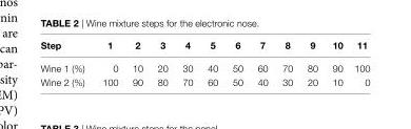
<table><thead><tr><td>step</td><td>1</td><td>2</td><td>3</td><td>4</td><td>5</td><td>6</td><td>7</td><td>8</td><td>9</td><td>10</td><td>11</td></tr></thead><tbody><tr><td>Wine 1 (%)</td><td>0</td><td>10</td><td>20</td><td>30</td><td>40</td><td>50</td><td>60</td><td>70</td><td>80</td><td>90</td><td>100</td></tr><tr><td>Wine 2 (%)</td><td>100</td><td>90</td><td>80</td><td>70</td><td>60</td><td>50</td><td>40</td><td>30</td><td>20</td><td>10</td><td>0</td></tr></tbody></table>